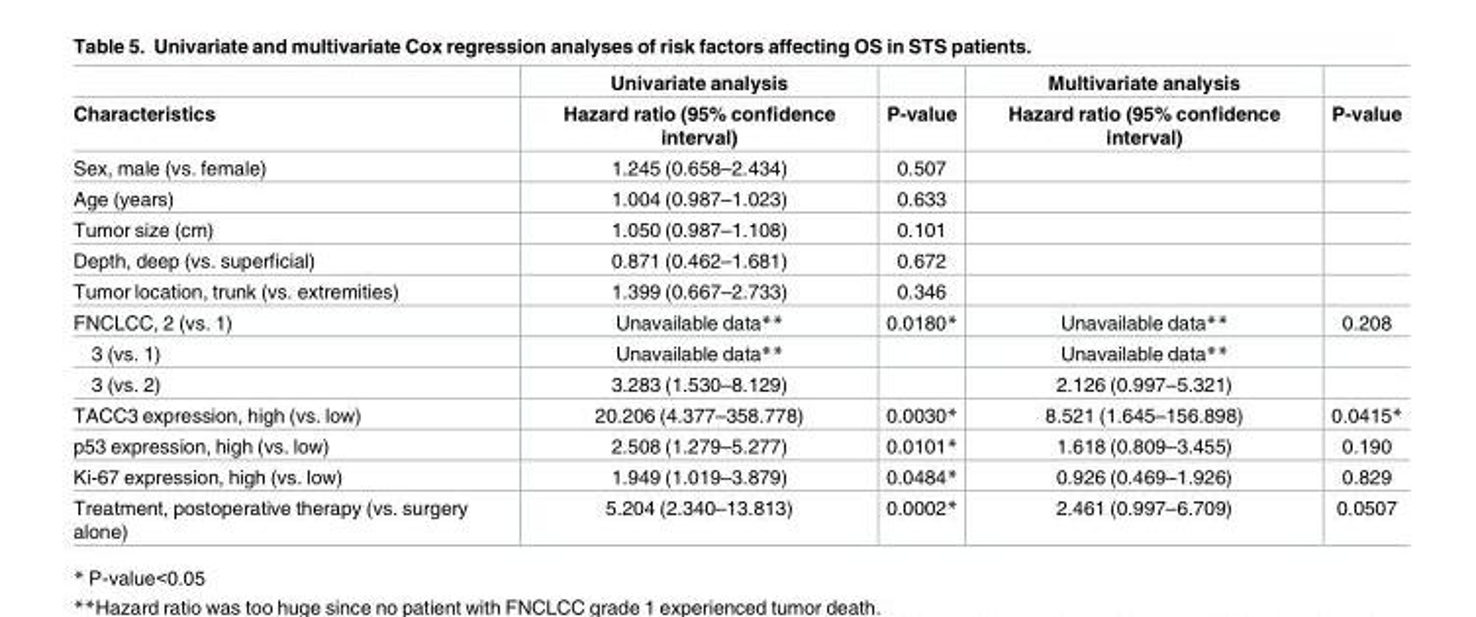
<table><thead><tr><td rowspan="2">Characteristics</td><td rowspan="2">Univariate analysis Hazard ratio (95% confidence interval)</td><td rowspan="2">P-value</td><td rowspan="2">Multivariate analysis Hazard ratio (95% confidence interval)</td><td rowspan="2">P-value</td></tr><tr></tr></thead><tbody><tr><td>Sex, male (vs. female)</td><td>1.245 (0.658–2.434)</td><td>0.507</td><td></td><td></td></tr><tr><td>Age (years)</td><td>1.004 (0.987–1.023)</td><td>0.633</td><td></td><td></td></tr><tr><td>Tumor size (cm)</td><td>1.050 (0.987–1.108)</td><td>0.101</td><td></td><td></td></tr><tr><td>Depth, deep (vs. superficial)</td><td>0.871 (0.462–1.681)</td><td>0.672</td><td></td><td></td></tr><tr><td>Tumor location, trunk (vs. extremities)</td><td>1.399 (0.667–2.733)</td><td>0.346</td><td></td><td></td></tr><tr><td>FNCLCC, 2 (vs. 1)</td><td>Unavailable data**</td><td>0.0180*</td><td>Unavailable data**</td><td>0.208</td></tr><tr><td>3 (vs. 1)</td><td>Unavailable data**</td><td></td><td>Unavailable data**</td><td></td></tr><tr><td>3 (vs. 2)</td><td>3.283 (1.530–8.129)</td><td></td><td>2.126 (0.997–5.321)</td><td></td></tr><tr><td>TACC3 expression, high (vs. low)</td><td>20.206 (4.377–358.778)</td><td>0.0030*</td><td>8.521 (1.645–156.898)</td><td>0.0415*</td></tr><tr><td>p53 expression, high (vs. low)</td><td>2.508 (1.279–5.277)</td><td>0.0101*</td><td>1.618 (0.809–3.455)</td><td>0.190</td></tr><tr><td>Ki-67 expression, high (vs. low)</td><td>1.949 (1.019–3.879)</td><td>0.0484*</td><td>0.926 (0.469–1.926)</td><td>0.829</td></tr><tr><td>Treatment, postoperative therapy (vs. surgery alone)</td><td>5.204 (2.340–13.813)</td><td>0.0002*</td><td>2.461 (0.997–6.709)</td><td>0.0507</td></tr></tbody></table>